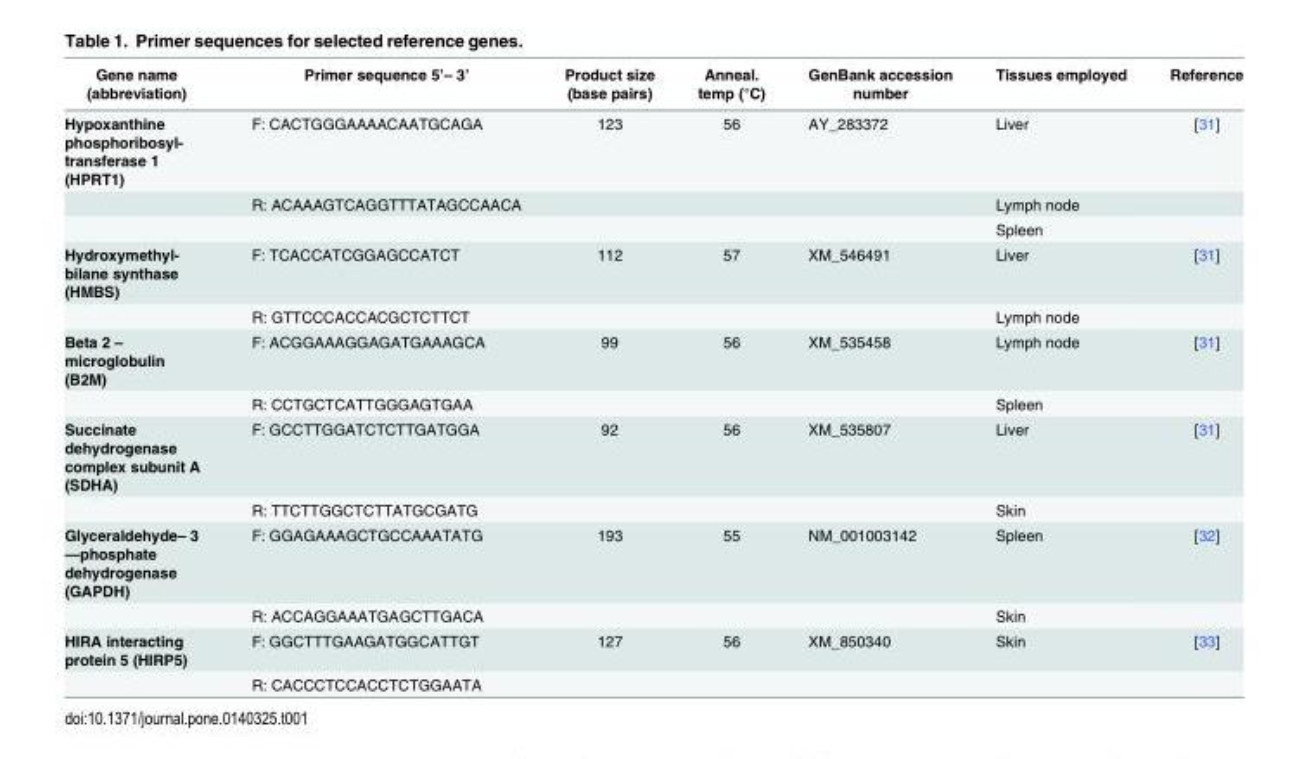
<table><thead><tr><td>Gene name (abbreviation)</td><td>Primer sequence 5’– 3’</td><td>Product size (base pairs)</td><td>Anneal. temp (°C)</td><td>GenBank accession number</td><td>Tissues employed</td><td>Reference</td></tr></thead><tbody><tr><td rowspan="3">Hypoxanthine phosphoribosyl- transferase 1 (HPRT1)</td><td>F: CACTGGGAAAACAATGCAGA</td><td>123</td><td>56</td><td>AY_283372</td><td>Liver</td><td>[31]</td></tr><tr><td>R: ACAAAGTCAGGTTTATAGCCAACA</td><td></td><td></td><td></td><td>Lymph node</td><td></td></tr><tr><td></td><td></td><td></td><td></td><td>Spleen</td><td></td></tr><tr><td rowspan="2">Hydroxymethyl- bilane synthase (HMBS)</td><td>F: TCACCATCGGAGCCATCT</td><td>112</td><td>57</td><td>XM_546491</td><td>Liver</td><td>[31]</td></tr><tr><td>R: GTTCCCACCACGCTCTTCT</td><td></td><td></td><td></td><td>Lymph node</td><td></td></tr><tr><td rowspan="2">Beta 2 – microglobulin (B2M)</td><td>F: ACGGAAAGGAGATGAAAGCA</td><td>99</td><td>56</td><td>XM_535458</td><td>Lymph node</td><td>[31]</td></tr><tr><td>R: CCTGCTCATTGGGAGTGAA</td><td></td><td></td><td></td><td>Spleen</td><td></td></tr><tr><td rowspan="2">Succinate dehydrogenase complex subunit A (SDHA)</td><td>F: GCCTTGGATCTCTTGATGGA</td><td>92</td><td>56</td><td>XM_535807</td><td>Liver</td><td>[31]</td></tr><tr><td>R: TTCTTGGCTCTTATGCGATG</td><td></td><td></td><td></td><td>Skin</td><td></td></tr><tr><td rowspan="2">Glyceraldehyde– 3 —phosphate dehydrogenase (GAPDH)</td><td>F: GGAGAAAGCTGCCAAATATG</td><td>193</td><td>55</td><td>NM_001003142</td><td>Spleen</td><td>[32]</td></tr><tr><td>R: ACCAGGAAATGAGCTTGACA</td><td></td><td></td><td></td><td>Skin</td><td></td></tr><tr><td rowspan="2">HIRA interacting protein 5 (HIRP5)</td><td>F: GGCTTTGAAGATGGCATTGT</td><td>127</td><td>56</td><td>XM_850340</td><td>Skin</td><td>[33]</td></tr><tr><td>R: CACCCTCCACCTCTGGAATA</td><td></td><td></td><td></td><td></td><td></td></tr></tbody></table>